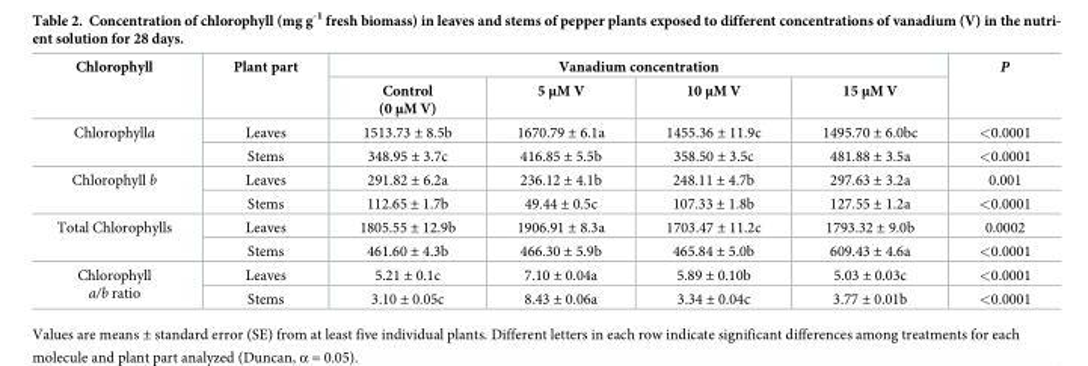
<table><thead><tr><td rowspan="2">Chlorophyll</td><td rowspan="2">Plant part</td><td colspan="4">Vanadium concentration</td><td rowspan="2">P</td></tr><tr><td>Control (0 μM V)</td><td>5 μM V</td><td>10 μM V</td><td>15 μM V</td></tr></thead><tbody><tr><td rowspan="2">Chlorophylla</td><td>Leaves</td><td>1513.73 ± 8.5b</td><td>1670.79 ± 6.1a</td><td>1455.36 ± 11.9c</td><td>1495.70 ± 6.0bc</td><td>&lt;0.0001</td></tr><tr><td>Stems</td><td>348.95 ± 3.7c</td><td>416.85 ± 5.5b</td><td>358.50 ± 3.5c</td><td>481.88 ± 3.5a</td><td>&lt;0.0001</td></tr><tr><td rowspan="2">Chlorophyll b</td><td>Leaves</td><td>291.82 ± 6.2a</td><td>236.12 ± 4.1b</td><td>248.11 ± 4.7b</td><td>297.63 ± 3.2a</td><td>0.001</td></tr><tr><td>Stems</td><td>112.65 ± 1.7b</td><td>49.44 ± 0.5c</td><td>107.33 ± 1.8b</td><td>127.55 ± 1.2a</td><td>&lt;0.0001</td></tr><tr><td rowspan="2">Total Chlorophylls</td><td>Leaves</td><td>1805.55 ± 12.9b</td><td>1906.91 ± 8.3a</td><td>1703.47 ± 11.2c</td><td>1793.32 ± 9.0b</td><td>0.0002</td></tr><tr><td>Stems</td><td>461.60 ± 4.3b</td><td>466.30 ± 5.9b</td><td>465.84 ± 5.0b</td><td>609.43 ± 4.6a</td><td>&lt;0.0001</td></tr><tr><td rowspan="2">Chlorophyll a/b ratio</td><td>Leaves</td><td>5.21 ± 0.1c</td><td>7.10 ± 0.04a</td><td>5.89 ± 0.10b</td><td>5.03 ± 0.03c</td><td>&lt;0.0001</td></tr><tr><td>Stems</td><td>3.10 ± 0.05c</td><td>8.43 ± 0.06a</td><td>3.34 ± 0.04c</td><td>3.77 ± 0.01b</td><td>&lt;0.0001</td></tr></tbody></table>